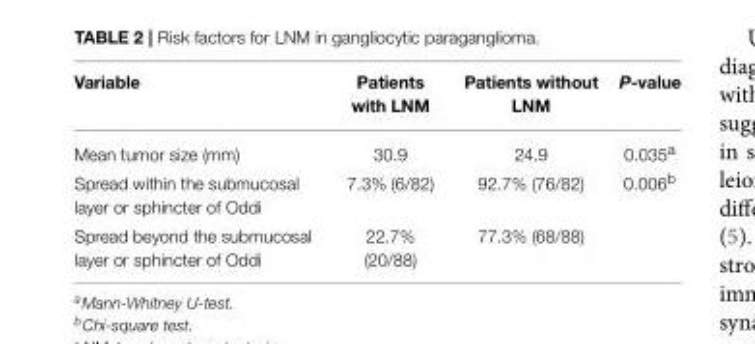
<table><thead><tr><td>Variable</td><td>Patients with LNM</td><td>Patients without LNM</td><td>P-value</td></tr></thead><tbody><tr><td>Mean tumor size (mm)</td><td>30.9</td><td>24.9</td><td>0.035<sup>a</sup></td></tr><tr><td>Spread within the submucosal layer or sphincter of Oddi</td><td>7.3% (6/82)</td><td>92.7% (76/82)</td><td>0.006<sup>b</sup></td></tr><tr><td>Spread beyond the submucosal layer or sphincter of Oddi</td><td>22.7% (20/88)</td><td>77.3% (68/88)</td><td></td></tr></tbody></table>